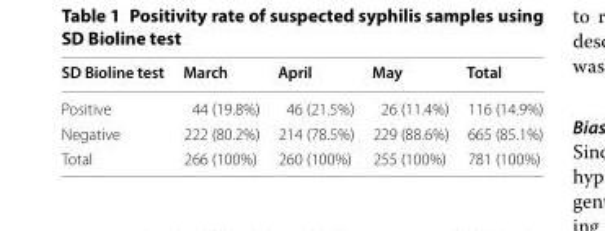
<table><thead><tr><td>SD Bioline test</td><td>March</td><td>April</td><td>May</td><td>Total</td></tr></thead><tbody><tr><td>Positive</td><td>44 (19.8%)</td><td>46 (21.5%)</td><td>26 (11.4%)</td><td>116 (14.9%)</td></tr><tr><td>Negative</td><td>222 (80.2%)</td><td>214 (78.5%)</td><td>229 (88.6%)</td><td>665 (85.1%)</td></tr><tr><td>Total</td><td>266 (100%)</td><td>260 (100%)</td><td>255 (100%)</td><td>781 (100%)</td></tr></tbody></table>